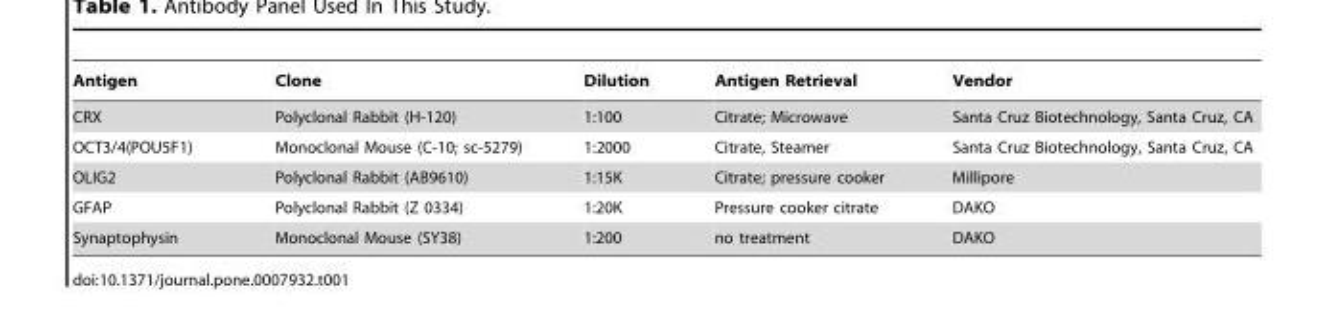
<table><thead><tr><td>Antigen</td><td>Clone</td><td>Dilution</td><td>Antigen Retrieval</td><td>Vendor</td></tr></thead><tbody><tr><td>CRX</td><td>Polyclonal Rabbit (H-120)</td><td>1:100</td><td>Citrate; Microwave</td><td>Santa Cruz Biotechnology, Santa Cruz, CA</td></tr><tr><td>OCT3/4(POU5F1)</td><td>Monoclonal Mouse (C-10; sc-5279)</td><td>1:2000</td><td>Citrate, Steamer</td><td>Santa Cruz Biotechnology, Santa Cruz, CA</td></tr><tr><td>OLIG2</td><td>Polyclonal Rabbit (AB9610)</td><td>1:15K</td><td>Citrate; pressure cooker</td><td>Millipore</td></tr><tr><td>GFAP</td><td>Polyclonal Rabbit (Z 0334)</td><td>1:20K</td><td>Pressure cooker citrate</td><td>DAKO</td></tr><tr><td>Synaptophysin</td><td>Monoclonal Mouse (SY38)</td><td>1:200</td><td>no treatment</td><td>DAKO</td></tr></tbody></table>